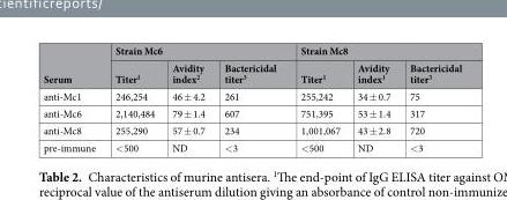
<table><thead><tr><td rowspan="2">Serum</td><td colspan="3">Strain Mc6</td><td colspan="3">Strain Mc8</td></tr><tr><td>Titer<sup>1</sup></td><td>Avidity index<sup>2</sup></td><td>Bactericidal titer<sup>3</sup></td><td>Titer<sup>1</sup></td><td>Avidity index<sup>1</sup></td><td>Bactericidal titer<sup>3</sup></td></tr></thead><tbody><tr><td>anti-Mc1</td><td>246,254</td><td>46 ± 4.2</td><td>261</td><td>255,242</td><td>34 ± 0.7</td><td>75</td></tr><tr><td>anti-Mc6</td><td>2,140,484</td><td>79 ± 1.4</td><td>607</td><td>751,395</td><td>53 ± 1.4</td><td>317</td></tr><tr><td>anti-Mc8</td><td>255,290</td><td>57 ± 0.7</td><td>234</td><td>1,001,067</td><td>43 ± 2.8</td><td>720</td></tr><tr><td>pre-immune</td><td>&lt;500</td><td>ND</td><td>&lt;3</td><td>&lt;500</td><td>ND</td><td>&lt;3</td></tr></tbody></table>